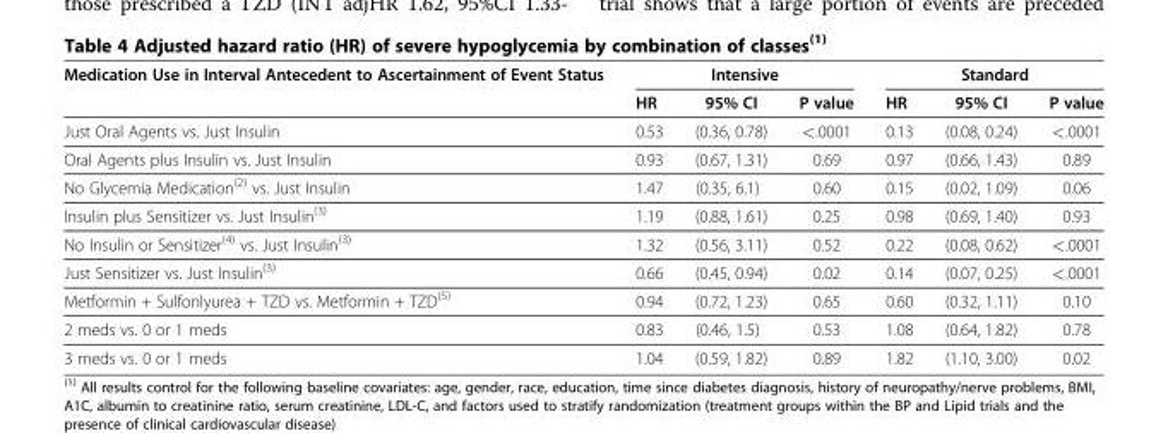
<table><thead><tr><td rowspan="2">Medication Use in Interval Antecedent to Ascertainment of Event Status</td><td colspan="3">Intensive</td><td colspan="3">Standard</td></tr><tr><td>HR</td><td>95% CI</td><td>P value</td><td>HR</td><td>95% CI</td><td>P value</td></tr></thead><tbody><tr><td>Just Oral Agents vs. Just Insulin</td><td>0.53</td><td>(0.36, 0.78)</td><td>&lt;.0001</td><td>0.13</td><td>(0.08, 0.24)</td><td>&lt;.0001</td></tr><tr><td>Oral Agents plus Insulin vs. Just Insulin</td><td>0.93</td><td>(0.67, 1.31)</td><td>0.69</td><td>0.97</td><td>(0.66, 1.43)</td><td>0.89</td></tr><tr><td>No Glycemia Medication<sup>(2)</sup> vs. Just Insulin</td><td>1.47</td><td>(0.35, 6.1)</td><td>0.60</td><td>0.15</td><td>(0.02, 1.09)</td><td>0.06</td></tr><tr><td>Insulin plus Sensitizer vs. Just Insulin<sup>(3)</sup></td><td>1.19</td><td>(0.88, 1.61)</td><td>0.25</td><td>0.98</td><td>(0.69, 1.40)</td><td>0.93</td></tr><tr><td>No Insulin or Sensitizer<sup>(4)</sup> vs. Just Insulin<sup>(3)</sup></td><td>1.32</td><td>(0.56, 3.11)</td><td>0.52</td><td>0.22</td><td>(0.08, 0.62)</td><td>&lt;.0001</td></tr><tr><td>Just Sensitizer vs. Just Insulin<sup>(3)</sup></td><td>0.66</td><td>(0.45, 0.94)</td><td>0.02</td><td>0.14</td><td>(0.07, 0.25)</td><td>&lt;.0001</td></tr><tr><td>Metformin + Sulfonlyurea + TZD vs. Metformin + TZD<sup>(5)</sup></td><td>0.94</td><td>(0.72, 1.23)</td><td>0.65</td><td>0.60</td><td>(0.32, 1.11)</td><td>0.10</td></tr><tr><td>2 meds vs. 0 or 1 meds</td><td>0.83</td><td>(0.46, 1.5)</td><td>0.53</td><td>1.08</td><td>(0.64, 1.82)</td><td>0.78</td></tr><tr><td>3 meds vs. 0 or 1 meds</td><td>1.04</td><td>(0.59, 1.82)</td><td>0.89</td><td>1.82</td><td>(1.10, 3.00)</td><td>0.02</td></tr></tbody></table>